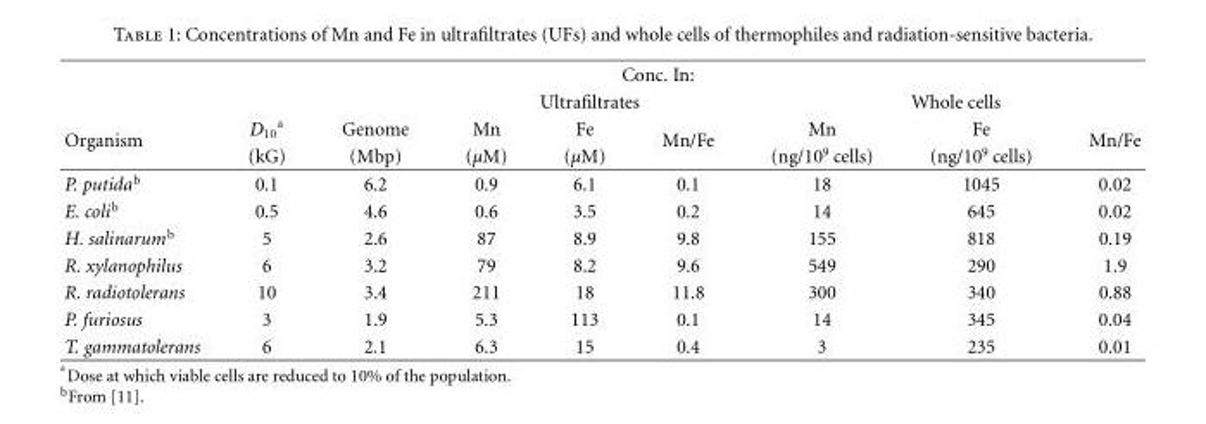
<table><thead><tr><td rowspan="4">Organism</td><td rowspan="4">D<sub>10</sub> <sup>a</sup> (kG)</td><td colspan="7">Conc. In:</td></tr><tr><td rowspan="3">Genome (Mbp)</td><td colspan="3">Ultrafiltrates</td><td colspan="3">Whole cells</td></tr><tr><td rowspan="2">Mn (µM)</td><td rowspan="2">Fe (µM)</td><td rowspan="2">Mn/Fe</td><td rowspan="2">Mn (ng/10<sup>9</sup> cells)</td><td rowspan="2">Fe (ng/10<sup>9</sup> cells)</td><td rowspan="2">Mn/Fe</td></tr><tr></tr></thead><tbody><tr><td>P. putida<sup>b</sup></td><td>0.1</td><td>6.2</td><td>0.9</td><td>6.1</td><td>0.1</td><td>18</td><td>1045</td><td>0.02</td></tr><tr><td>E. coli<sup>b</sup></td><td>0.5</td><td>4.6</td><td>0.6</td><td>3.5</td><td>0.2</td><td>14</td><td>645</td><td>0.02</td></tr><tr><td>H. salinarum<sup>b</sup></td><td>5</td><td>2.6</td><td>87</td><td>8.9</td><td>9.8</td><td>155</td><td>818</td><td>0.19</td></tr><tr><td>R. xylanophilus</td><td>6</td><td>3.2</td><td>79</td><td>8.2</td><td>9.6</td><td>549</td><td>290</td><td>1.9</td></tr><tr><td>R. radiotolerans</td><td>10</td><td>3.4</td><td>211</td><td>18</td><td>11.8</td><td>300</td><td>340</td><td>0.88</td></tr><tr><td>P. furiosus</td><td>3</td><td>1.9</td><td>5.3</td><td>113</td><td>0.1</td><td>14</td><td>345</td><td>0.04</td></tr><tr><td>T. gammatolerans</td><td>6</td><td>2.1</td><td>6.3</td><td>15</td><td>0.4</td><td>3</td><td>235</td><td>0.01</td></tr></tbody></table>